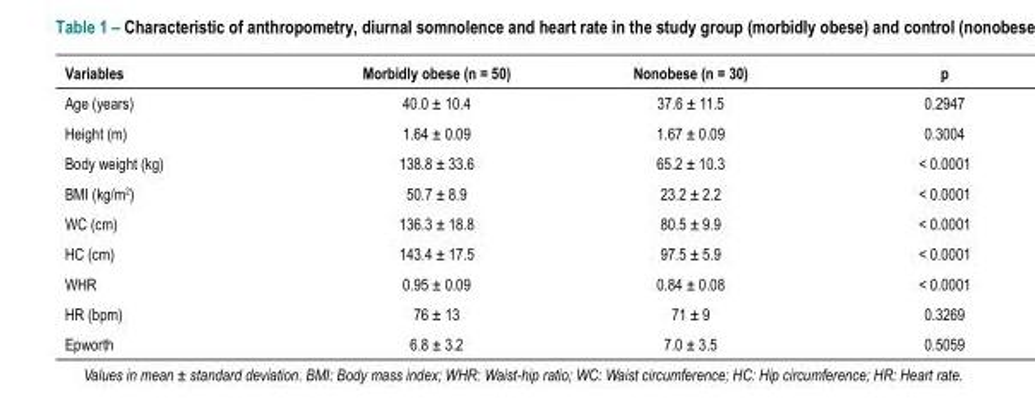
<table><thead><tr><td>Variables</td><td>Morbidly obese (n = 50)</td><td>Nonobese (n = 30)</td><td>p</td></tr></thead><tbody><tr><td>Age (years)</td><td>40.0 ± 10.4</td><td>37.6 ± 11.5</td><td>0.2947</td></tr><tr><td>Height (m)</td><td>1.64 ± 0.09</td><td>1.67 ± 0.09</td><td>0.3004</td></tr><tr><td>Body weight (kg)</td><td>138.8 ± 33.6</td><td>65.2 ± 10.3</td><td>&lt; 0.0001</td></tr><tr><td>BMI (kg/m<sup>2</sup>)</td><td>50.7 ± 8.9</td><td>23.2 ± 2.2</td><td>&lt; 0.0001</td></tr><tr><td>WC (cm)</td><td>136.3 ± 18.8</td><td>80.5 ± 9.9</td><td>&lt; 0.0001</td></tr><tr><td>HC (cm)</td><td>143.4 ± 17.5</td><td>97.5 ± 5.9</td><td>&lt; 0.0001</td></tr><tr><td>WHR</td><td>0.95 ± 0.09</td><td>0.84 ± 0.08</td><td>&lt; 0.0001</td></tr><tr><td>HR (bpm)</td><td>76 ± 13</td><td>71 ± 9</td><td>0.3269</td></tr><tr><td>Epworth</td><td>6.8 ± 3.2</td><td>7.0 ± 3.5</td><td>0.5059</td></tr></tbody></table>